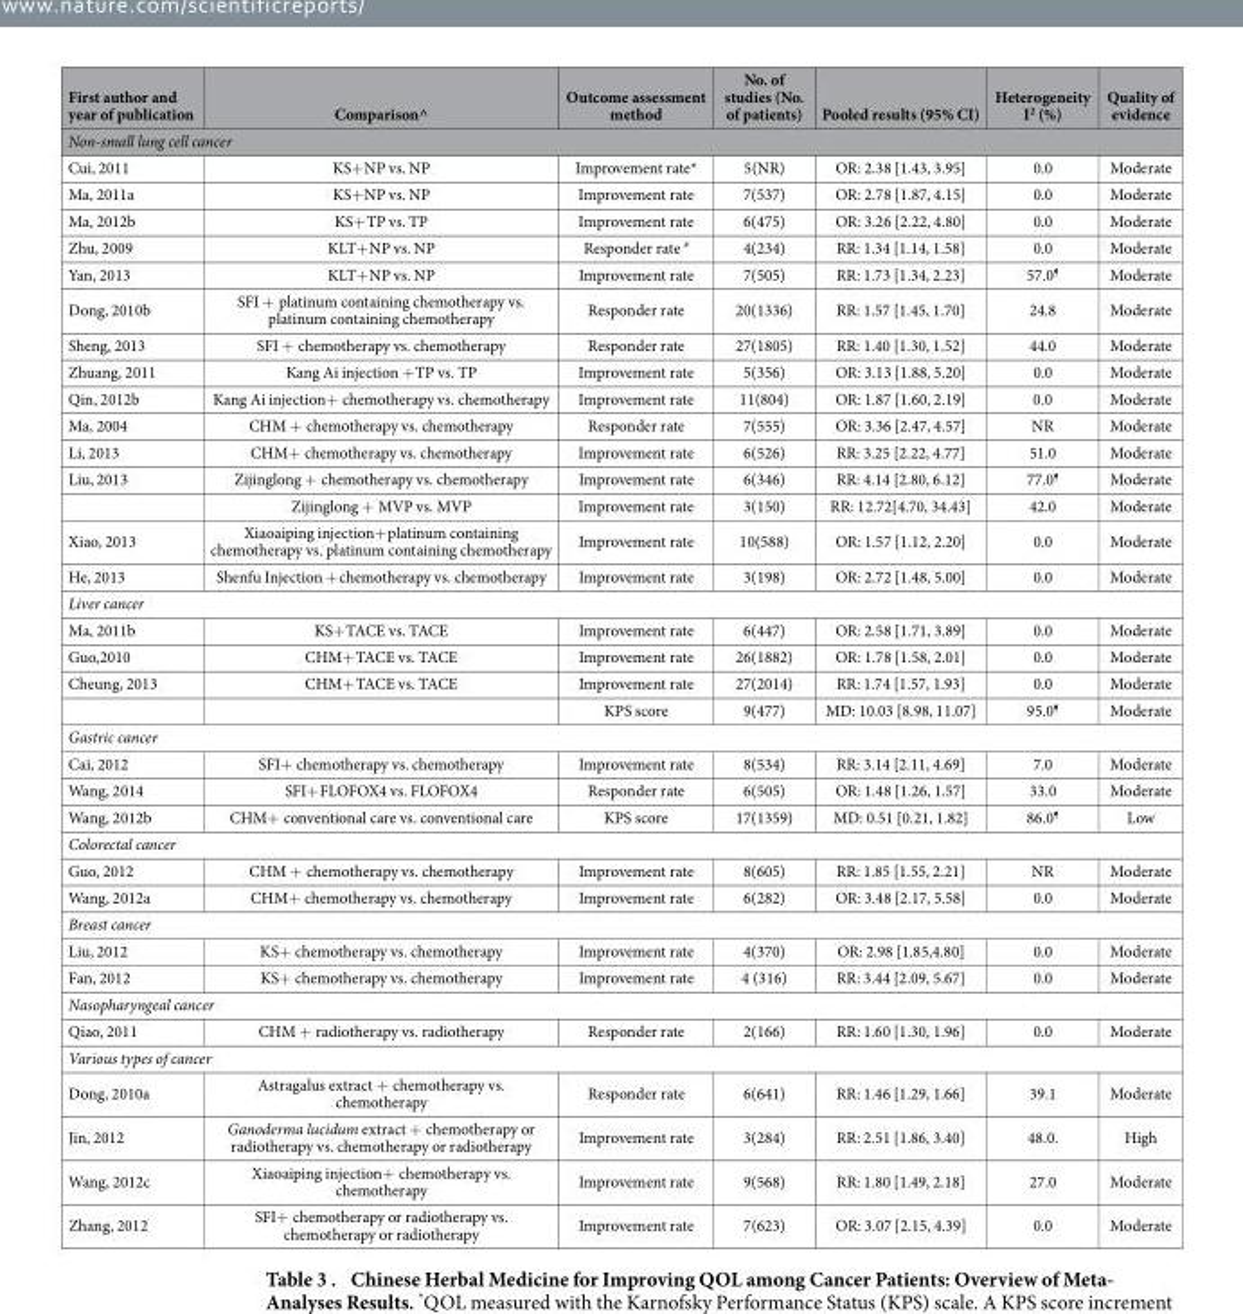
<table><thead><tr><td>First author and year of publication</td><td>Comparison^</td><td>Outcome assessment method</td><td>No. of studies (No. of patients)</td><td>Pooled results (95% CI)</td><td>Heterogeneity I<sup>2</sup> (%)</td><td>Quality of evidence</td></tr><tr><td colspan="7">Non-small lung cell cancer</td></tr></thead><tbody><tr><td>Cui, 2011</td><td>KS+ NP vs. NP</td><td>Improvement rate*</td><td>5(NR)</td><td>OR: 2.38 [1.43, 3.95]</td><td>0.0</td><td>Moderate</td></tr><tr><td>Ma, 2011a</td><td>KS+ NP vs. NP</td><td>Improvement rate</td><td>7(537)</td><td>OR: 2.78 [1.87, 4.15]</td><td>0.0</td><td>Moderate</td></tr><tr><td>Ma, 2012b</td><td>KS+ TP vs. TP</td><td>Improvement rate</td><td>6(475)</td><td>OR: 3.26 [2.22, 4.80]</td><td>0.0</td><td>Moderate</td></tr><tr><td>Zhu, 2009</td><td>KLT+ NP vs. NP</td><td>Responder rate #</td><td>4(234)</td><td>RR: 1.34 [1.14, 1.58]</td><td>0.0</td><td>Moderate</td></tr><tr><td>Yan, 2013</td><td>KLT+ NP vs. NP</td><td>Improvement rate</td><td>7(505)</td><td>RR: 1.73 [1.34, 2.23]</td><td>57.0¶</td><td>Moderate</td></tr><tr><td>Dong, 2010b</td><td>SFI + platinum containing chemotherapy vs. platinum containing chemotherapy</td><td>Responder rate</td><td>20(1336)</td><td>RR: 1.57 [1.45, 1.70]</td><td>24.8</td><td>Moderate</td></tr><tr><td>Sheng, 2013</td><td>SFI + chemotherapy vs. chemotherapy</td><td>Responder rate</td><td>27(1805)</td><td>RR: 1.40 [1.30, 1.52]</td><td>44.0</td><td>Moderate</td></tr><tr><td>Zhuang, 2011</td><td>Kang Ai injection + TP vs. TP</td><td>Improvement rate</td><td>5(356)</td><td>OR: 3.13 [1.88, 5.20]</td><td>0.0</td><td>Moderate</td></tr><tr><td>Qin, 2012b</td><td>Kang Ai injection+ chemotherapy vs. chemotherapy</td><td>Improvement rate</td><td>11(804)</td><td>OR: 1.87 [1.60, 2.19]</td><td>0.0</td><td>Moderate</td></tr><tr><td>Ma, 2004</td><td>CHM + chemotherapy vs. chemotherapy</td><td>Responder rate</td><td>7(555)</td><td>OR: 3.36 [2.47, 4.57]</td><td>NR</td><td>Moderate</td></tr><tr><td>Li, 2013</td><td>CHM+ chemotherapy vs. chemotherapy</td><td>Improvement rate</td><td>6(526)</td><td>RR: 3.25 [2.22, 4.77]</td><td>51.0</td><td>Moderate</td></tr><tr><td rowspan="2">Liu, 2013</td><td>Zijinglong + chemotherapy vs. chemotherapy</td><td>Improvement rate</td><td>6(346)</td><td>RR: 4.14 [2.80, 6.12]</td><td>77.0¶</td><td>Moderate</td></tr><tr><td>Zijinglong + MVP vs. MVP</td><td>Improvement rate</td><td>3(150)</td><td>RR: 12.72[4.70, 34.43]</td><td>42.0</td><td>Moderate</td></tr><tr><td>Xiao, 2013</td><td>Xiaoaiping injection+ platinum containing chemotherapy vs. platinum containing chemotherapy</td><td>Improvement rate</td><td>10(588)</td><td>OR: 1.57 [1.12, 2.20]</td><td>0.0</td><td>Moderate</td></tr><tr><td>He, 2013</td><td>Shenfu Injection + chemotherapy vs. chemotherapy</td><td>Improvement rate</td><td>3(198)</td><td>OR: 2.72 [1.48, 5.00]</td><td>0.0</td><td>Moderate</td></tr><tr><td colspan="7">Liver cancer</td></tr><tr><td>Ma, 2011b</td><td>KS+ TACE vs. TACE</td><td>Improvement rate</td><td>6(447)</td><td>OR: 2.58 [1.71, 3.89]</td><td>0.0</td><td>Moderate</td></tr><tr><td>Guo,2010</td><td>CHM+ TACE vs. TACE</td><td>Improvement rate</td><td>26(1882)</td><td>OR: 1.78 [1.58, 2.01]</td><td>0.0</td><td>Moderate</td></tr><tr><td rowspan="2">Cheung, 2013</td><td>CHM+ TACE vs. TACE</td><td>Improvement rate</td><td>27(2014)</td><td>RR: 1.74 [1.57, 1.93]</td><td>0.0</td><td>Moderate</td></tr><tr><td></td><td>KPS score</td><td>9(477)</td><td>MD: 10.03 [8.98, 11.07]</td><td>95.0¶</td><td>Moderate</td></tr><tr><td colspan="7">Gastric cancer</td></tr><tr><td>Cai, 2012</td><td>SFI+ chemotherapy vs. chemotherapy</td><td>Improvement rate</td><td>8(534)</td><td>RR: 3.14 [2.11, 4.69]</td><td>7.0</td><td>Moderate</td></tr><tr><td>Wang, 2014</td><td>SFI+ FLOFOX4 vs. FLOFOX4</td><td>Responder rate</td><td>6(505)</td><td>OR: 1.48 [1.26, 1.57]</td><td>33.0</td><td>Moderate</td></tr><tr><td>Wang, 2012b</td><td>CHM+ conventional care vs. conventional care</td><td>KPS score</td><td>17(1359)</td><td>MD: 0.51 [0.21, 1.82]</td><td>86.0¶</td><td>Low</td></tr><tr><td colspan="7">Colorectal cancer</td></tr><tr><td>Guo, 2012</td><td>CHM + chemotherapy vs. chemotherapy</td><td>Improvement rate</td><td>8(605)</td><td>RR: 1.85 [1.55, 2.21]</td><td>NR</td><td>Moderate</td></tr><tr><td>Wang, 2012a</td><td>CHM+ chemotherapy vs. chemotherapy</td><td>Improvement rate</td><td>6(282)</td><td>OR: 3.48 [2.17, 5.58]</td><td>0.0</td><td>Moderate</td></tr><tr><td colspan="7">Breast cancer</td></tr><tr><td>Liu, 2012</td><td>KS+ chemotherapy vs. chemotherapy</td><td>Improvement rate</td><td>4(370)</td><td>OR: 2.98 [1.85,4.80]</td><td>0.0</td><td>Moderate</td></tr><tr><td>Fan, 2012</td><td>KS+ chemotherapy vs. chemotherapy</td><td>Improvement rate</td><td>4 (316)</td><td>RR: 3.44 [2.09, 5.67]</td><td>0.0</td><td>Moderate</td></tr><tr><td colspan="7">Nasopharyngeal cancer</td></tr><tr><td>Qiao, 2011</td><td>CHM + radiotherapy vs. radiotherapy</td><td>Responder rate</td><td>2(166)</td><td>RR: 1.60 [1.30, 1.96]</td><td>0.0</td><td>Moderate</td></tr><tr><td colspan="7">Various types of cancer</td></tr><tr><td>Dong, 2010a</td><td>Astragalus extract + chemotherapy vs. chemotherapy</td><td>Responder rate</td><td>6(641)</td><td>RR: 1.46 [1.29, 1.66]</td><td>39.1</td><td>Moderate</td></tr><tr><td>Jin, 2012</td><td>Ganoderma lucidum extract + chemotherapy or radiotherapy vs. chemotherapy or radiotherapy</td><td>Improvement rate</td><td>3(284)</td><td>RR: 2.51 [1.86, 3.40]</td><td>48.0.</td><td>High</td></tr><tr><td>Wang, 2012c</td><td>Xiaoaiping injection+ chemotherapy vs. chemotherapy</td><td>Improvement rate</td><td>9(568)</td><td>RR: 1.80 [1.49, 2.18]</td><td>27.0</td><td>Moderate</td></tr><tr><td>Zhang, 2012</td><td>SFI+ chemotherapy or radiotherapy vs. chemotherapy or radiotherapy</td><td>Improvement rate</td><td>7(623)</td><td>OR: 3.07 [2.15, 4.39]</td><td>0.0</td><td>Moderate</td></tr></tbody></table>